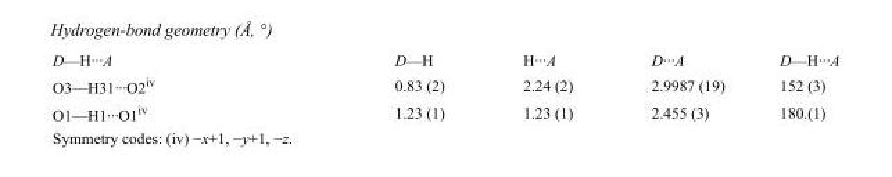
<table><tbody><tr><td>D—H···A</td><td>D—H</td><td>H···A</td><td>D···A</td><td>D—H···A</td></tr><tr><td>O3—H31···O2<sup>iv</sup></td><td>0.83 (2)</td><td>2.24 (2)</td><td>2.9987 (19)</td><td>152 (3)</td></tr><tr><td>O1—H1···O1<sup>iv</sup></td><td>1.23 (1)</td><td>1.23 (1)</td><td>2.455 (3)</td><td>180.(1)</td></tr></tbody></table>